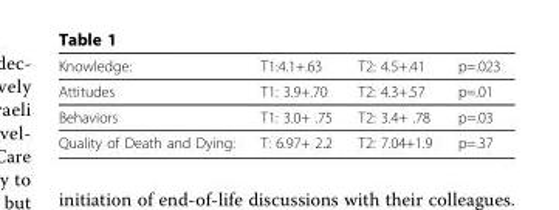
<table><tbody><tr><td>Knowledge:</td><td>T1:4.1+.63</td><td>T2: 4.5+.41</td><td>p=.023</td></tr><tr><td>Attitudes</td><td>T1: 3.9+.70</td><td>T2: 4.3+.57</td><td>p=.01</td></tr><tr><td>Behaviors</td><td>T1: 3.0+ .75</td><td>T2: 3.4+ .78</td><td>p=.03</td></tr><tr><td>Quality of Death and Dying:</td><td>T: 6.97+ 2.2</td><td>T2: 7.04+1.9</td><td>p=.37</td></tr></tbody></table>